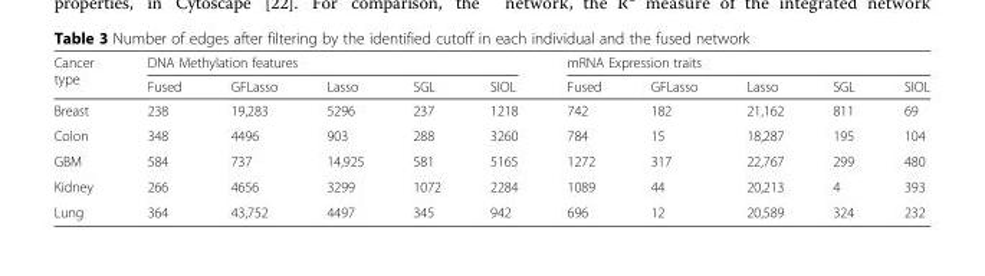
<table><thead><tr><td rowspan="2">Cancer type</td><td colspan="5">DNA Methylation features</td><td colspan="5">mRNA Expression traits</td></tr><tr><td>Fused</td><td>GFLasso</td><td>Lasso</td><td>SGL</td><td>SIOL</td><td>Fused</td><td>GFLasso</td><td>Lasso</td><td>SGL</td><td>SIOL</td></tr></thead><tbody><tr><td>Breast</td><td>238</td><td>19,283</td><td>5296</td><td>237</td><td>1218</td><td>742</td><td>182</td><td>21,162</td><td>811</td><td>69</td></tr><tr><td>Colon</td><td>348</td><td>4496</td><td>903</td><td>288</td><td>3260</td><td>784</td><td>15</td><td>18,287</td><td>195</td><td>104</td></tr><tr><td>GBM</td><td>584</td><td>737</td><td>14,925</td><td>581</td><td>5165</td><td>1272</td><td>317</td><td>22,767</td><td>299</td><td>480</td></tr><tr><td>Kidney</td><td>266</td><td>4656</td><td>3299</td><td>1072</td><td>2284</td><td>1089</td><td>44</td><td>20,213</td><td>4</td><td>393</td></tr><tr><td>Lung</td><td>364</td><td>43,752</td><td>4497</td><td>345</td><td>942</td><td>696</td><td>12</td><td>20,589</td><td>324</td><td>232</td></tr></tbody></table>